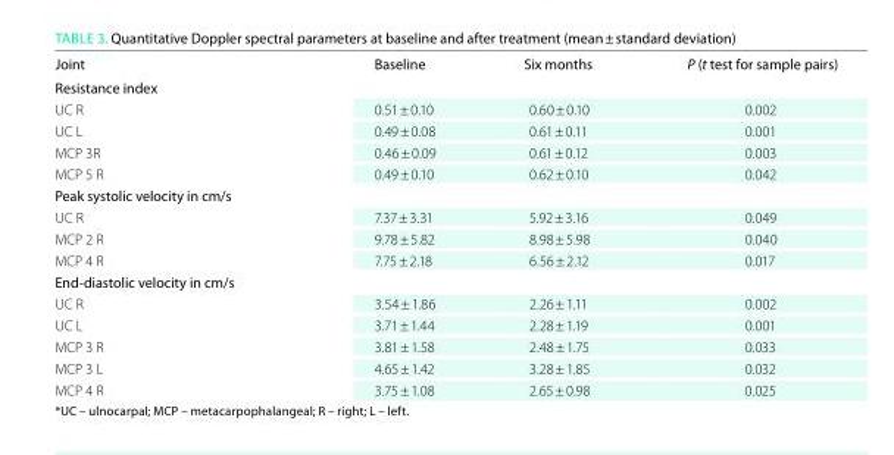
<table><thead><tr><td>Joint</td><td>Baseline</td><td>six months</td><td>P (t test for sample pairs)</td></tr></thead><tbody><tr><td colspan="4">resistance index</td></tr><tr><td>UC R</td><td>0.51 ± 0.10</td><td>0.60 ± 0.10</td><td>0.002</td></tr><tr><td>UC L</td><td>0.49 ± 0.08</td><td>0.61 ± 0.11</td><td>0.001</td></tr><tr><td>MCP 3R</td><td>0.46 ± 0.09</td><td>0.61 ± 0.12</td><td>0.003</td></tr><tr><td>MCP 5 R</td><td>0.49 ± 0.10</td><td>0.62 ± 0.10</td><td>0.042</td></tr><tr><td colspan="4">Peak systolic velocity in cm/s</td></tr><tr><td>UC R</td><td>7.37 ± 3.31</td><td>5.92 ± 3.16</td><td>0.049</td></tr><tr><td>MCP 2 R</td><td>9.78 ± 5.82</td><td>8.98 ± 5.98</td><td>0.040</td></tr><tr><td>MCP 4 R</td><td>7.75 ± 2.18</td><td>6.56 ± 2.12</td><td>0.017</td></tr><tr><td colspan="4">end-diastolic velocity in cm/s</td></tr><tr><td>UC R</td><td>3.54 ± 1.86</td><td>2.26 ± 1.11</td><td>0.002</td></tr><tr><td>UC L</td><td>3.71 ± 1.44</td><td>2.28 ± 1.19</td><td>0.001</td></tr><tr><td>MCP 3 R</td><td>3.81 ± 1.58</td><td>2.48 ± 1.75</td><td>0.033</td></tr><tr><td>MCP 3 L</td><td>4.65 ± 1.42</td><td>3.28 ± 1.85</td><td>0.032</td></tr><tr><td>MCP 4 R</td><td>3.75 ± 1.08</td><td>2.65 ± 0.98</td><td>0.025</td></tr></tbody></table>